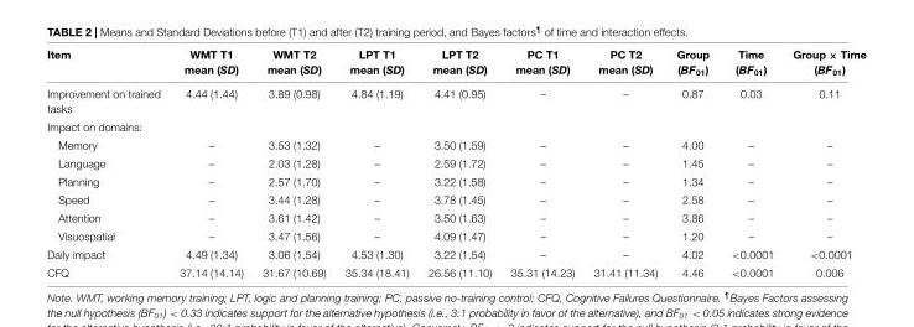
<table><thead><tr><td>Item</td><td>WMT T1 mean (SD)</td><td>WMT T2 mean (SD)</td><td>LPT T1 mean (SD)</td><td>LPT T2 mean (SD)</td><td>PC T1 mean (SD)</td><td>PC T2 mean (SD)</td><td>Group (BF<sub>01</sub>)</td><td>Time (BF<sub>01</sub>)</td><td>Group × Time (BF<sub>01</sub>)</td></tr></thead><tbody><tr><td>Improvement on trained</td><td>4.44 (1.44)</td><td>3.89 (0.98)</td><td>4.84 (1.19)</td><td>4.41 (0.95)</td><td>–</td><td>–</td><td>0.87</td><td>0.03</td><td>0.11</td></tr><tr><td colspan="10">tasks</td></tr><tr><td colspan="10">Impact on domains:</td></tr><tr><td>Memory</td><td>–</td><td>3.53 (1.32)</td><td>–</td><td>3.50 (1.59)</td><td>–</td><td>–</td><td>4.00</td><td>–</td><td>–</td></tr><tr><td>Language</td><td>–</td><td>2.03 (1.28)</td><td>–</td><td>2.59 (1.72)</td><td>–</td><td>–</td><td>1.45</td><td>–</td><td>–</td></tr><tr><td>Planning</td><td>–</td><td>2.57 (1.70)</td><td>–</td><td>3.22 (1.58)</td><td>–</td><td>–</td><td>1.34</td><td>–</td><td>–</td></tr><tr><td>Speed</td><td>–</td><td>3.44 (1.28)</td><td>–</td><td>3.78 (1.45)</td><td>–</td><td>–</td><td>2.58</td><td>–</td><td>–</td></tr><tr><td>Attention</td><td>–</td><td>3.61 (1.42)</td><td>–</td><td>3.50 (1.63)</td><td>–</td><td>–</td><td>3.86</td><td>–</td><td>–</td></tr><tr><td>Visuospatial</td><td>–</td><td>3.47 (1.56)</td><td>–</td><td>4.09 (1.47)</td><td>–</td><td>–</td><td>1.20</td><td>–</td><td>–</td></tr><tr><td>Daily impact</td><td>4.49 (1.34)</td><td>3.06 (1.54)</td><td>4.53 (1.30)</td><td>3.22 (1.54)</td><td>–</td><td>–</td><td>4.02</td><td>&lt;0.0001</td><td>&lt;0.0001</td></tr><tr><td>CFQ</td><td>37.14 (14.14)</td><td>31.67 (10.69)</td><td>35.34 (18.41)</td><td>26.56 (11.10)</td><td>35.31 (14.23)</td><td>31.41 (11.34)</td><td>4.46</td><td>&lt;0.0001</td><td>0.006</td></tr></tbody></table>